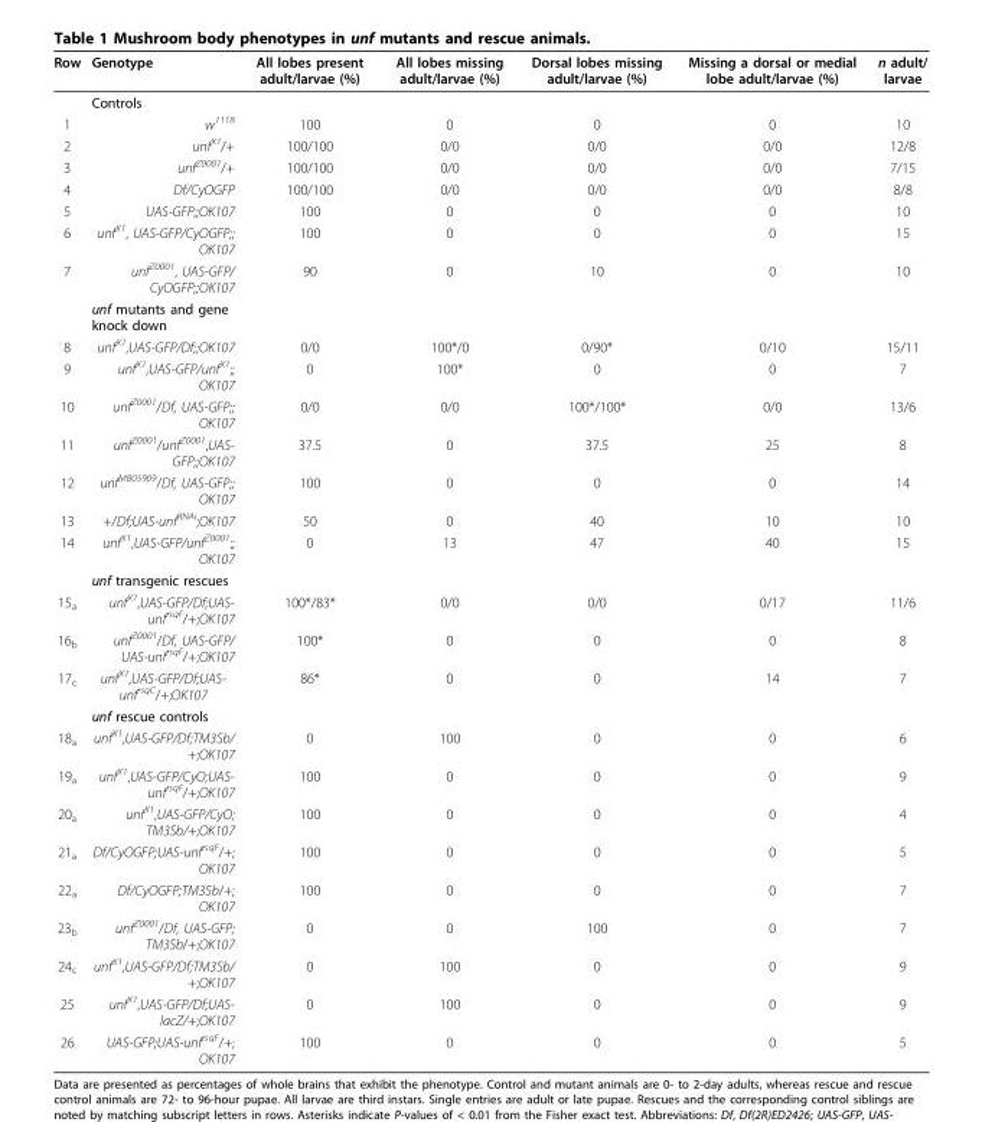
<table><thead><tr><td>Row</td><td>Genotype</td><td>All lobes present adult/larvae (%)</td><td>All lobes missing adult/larvae (%)</td><td>Dorsal lobes missing adult/larvae (%)</td><td>Missing a dorsal or medial lobe adult/larvae (%)</td><td>n adult/ larvae</td></tr></thead><tbody><tr><td></td><td>Controls</td><td></td><td></td><td></td><td></td><td></td></tr><tr><td>1</td><td>w<sup>1118</sup></td><td>100</td><td>0</td><td>0</td><td>0</td><td>10</td></tr><tr><td>2</td><td>unf<sup>X1</sup>/+</td><td>100/100</td><td>0/0</td><td>0/0</td><td>0/0</td><td>12/8</td></tr><tr><td>3</td><td>unf<sup>Z0001</sup>/+</td><td>100/100</td><td>0/0</td><td>0/0</td><td>0/0</td><td>7/15</td></tr><tr><td>4</td><td>Df/CyOGFP</td><td>100/100</td><td>0/0</td><td>0/0</td><td>0/0</td><td>8/8</td></tr><tr><td>5</td><td>UAS-GFP;;OK107</td><td>100</td><td>0</td><td>0</td><td>0</td><td>10</td></tr><tr><td>6</td><td>unf<sup>X1</sup>, UAS-GFP/CyOGFP;; OK107</td><td>100</td><td>0</td><td>0</td><td>0</td><td>15</td></tr><tr><td rowspan="2">7</td><td>unf<sup>Z0001</sup>, UAS-GFP/ CyOGFP;;OK107</td><td>90</td><td>0</td><td>10</td><td>0</td><td>10</td></tr><tr><td>unf mutants and gene knock down</td><td></td><td></td><td></td><td></td><td></td></tr><tr><td>8</td><td>unf<sup>X1</sup>,UAS-GFP/Df;;OK107</td><td>0/0</td><td>100*/0</td><td>0/90*</td><td>0/10</td><td>15/11</td></tr><tr><td>9</td><td>unf<sup>X1</sup>,UAS-GFP/unf<sup>X1</sup>;; OK107</td><td>0</td><td>100*</td><td>0</td><td>0</td><td>7</td></tr><tr><td>10</td><td>unf<sup>Z0001</sup>/Df, UAS-GFP;; OK107</td><td>0/0</td><td>0/0</td><td>100*/100*</td><td>0/0</td><td>13/6</td></tr><tr><td>11</td><td>unf<sup>Z0001</sup>/unf<sup>Z0001</sup>,UAS- GFP;;OK107</td><td>37.5</td><td>0</td><td>37.5</td><td>25</td><td>8</td></tr><tr><td>12</td><td>unf<sup>MB05909</sup>/Df, UAS-GFP;; OK107</td><td>100</td><td>0</td><td>0</td><td>0</td><td>14</td></tr><tr><td>13</td><td>+/Df;UAS-unf<sup>RNAi</sup>;OK107</td><td>50</td><td>0</td><td>40</td><td>10</td><td>10</td></tr><tr><td rowspan="2">14</td><td>unf<sup>X1</sup>,UAS-GFP/unf<sup>Z0001</sup>;; OK107</td><td>0</td><td>13</td><td>47</td><td>40</td><td>15</td></tr><tr><td>unf transgenic rescues</td><td></td><td></td><td></td><td></td><td></td></tr><tr><td>15<sub>a</sub></td><td>unf<sup>X1</sup>,UAS-GFP/Df;UAS- unf<sup>rsqF</sup>/+;OK107</td><td>100*/83*</td><td>0/0</td><td>0/0</td><td>0/17</td><td>11/6</td></tr><tr><td>16<sub>b</sub></td><td>unf<sup>Z0001</sup>/Df, UAS-GFP/ UAS-unf<sup>rsqF</sup>/+;OK107</td><td>100*</td><td>0</td><td>0</td><td>0</td><td>8</td></tr><tr><td rowspan="2">17<sub>c</sub></td><td>unf<sup>X1</sup>,UAS-GFP/Df;UAS- unf<sup>rsqC</sup>/+;OK107</td><td>86*</td><td>0</td><td>0</td><td>14</td><td>7</td></tr><tr><td>unf rescue controls</td><td></td><td></td><td></td><td></td><td></td></tr><tr><td>18<sub>a</sub></td><td>unf<sup>X1</sup>,UAS-GFP/Df;TM3Sb/ +;OK107</td><td>0</td><td>100</td><td>0</td><td>0</td><td>6</td></tr><tr><td>19<sub>a</sub></td><td>unf<sup>X1</sup>,UAS-GFP/CyO;UAS- unf<sup>rsqF</sup>/+;OK107</td><td>100</td><td>0</td><td>0</td><td>0</td><td>9</td></tr><tr><td>20<sub>a</sub></td><td>unf<sup>X1</sup>,UAS-GFP/CyO; TM3Sb/+;OK107</td><td>100</td><td>0</td><td>0</td><td>0</td><td>4</td></tr><tr><td>21<sub>a</sub></td><td>Df/CyOGFP;UAS-unf<sup>rsqF</sup>/+; OK107</td><td>100</td><td>0</td><td>0</td><td>0</td><td>5</td></tr><tr><td>22<sub>a</sub></td><td>Df/CyOGFP;TM3Sb/+; OK107</td><td>100</td><td>0</td><td>0</td><td>0</td><td>7</td></tr><tr><td>23<sub>b</sub></td><td>unf<sup>Z0001</sup>/Df, UAS-GFP; TM3Sb/+;OK107</td><td>0</td><td>0</td><td>100</td><td>0</td><td>7</td></tr><tr><td>24<sub>c</sub></td><td>unf<sup>X1</sup>,UAS-GFP/Df;TM3Sb/ +;OK107</td><td>0</td><td>100</td><td>0</td><td>0</td><td>9</td></tr><tr><td>25</td><td>unf<sup>X1</sup>,UAS-GFP/Df;UAS- lacZ/+;OK107</td><td>0</td><td>100</td><td>0</td><td>0</td><td>9</td></tr><tr><td>26</td><td>UAS-GFP;UAS-unf<sup>rsqF</sup>/+; OK107</td><td>100</td><td>0</td><td>0</td><td>0</td><td>5</td></tr></tbody></table>